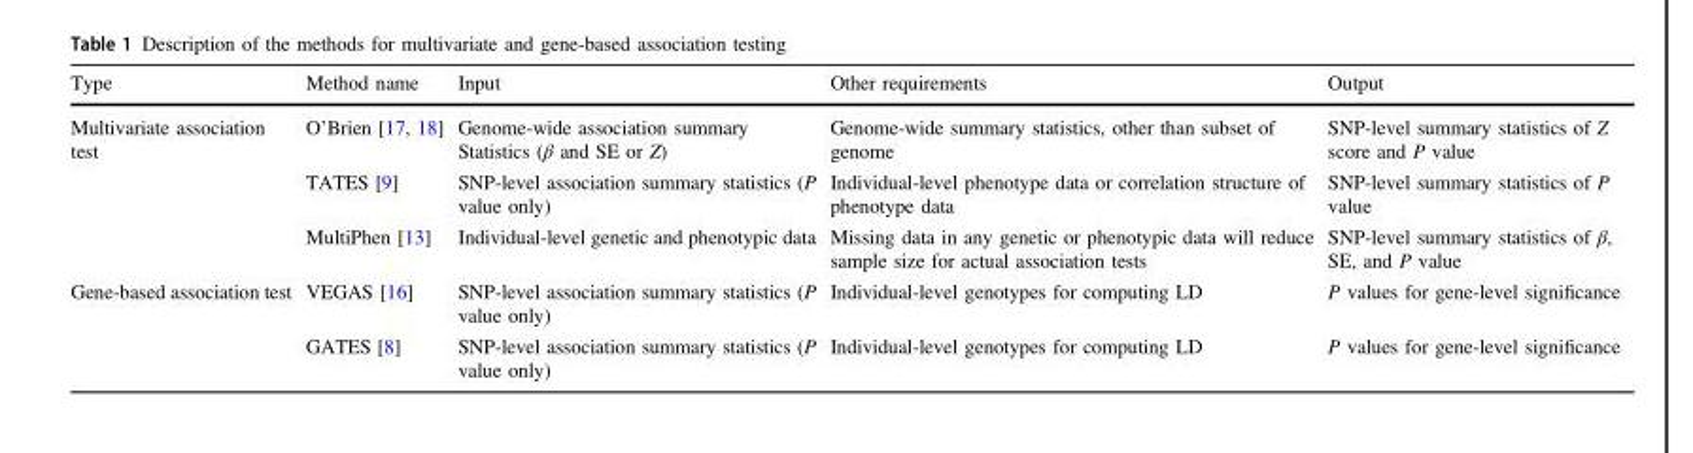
<table><thead><tr><td>Type</td><td>Method name</td><td>Input</td><td>Other requirements</td><td>Output</td></tr></thead><tbody><tr><td rowspan="3">Multivariate association test</td><td>O’Brien [17, 18]</td><td>Genome-wide association summary Statistics (β and SE or Z)</td><td>Genome-wide summary statistics, other than subset of genome</td><td>SNP-level summary statistics of Z score and P value</td></tr><tr><td>TATES [9]</td><td>SNP-level association summary statistics (P value only)</td><td>Individual-level phenotype data or correlation structure of phenotype data</td><td>SNP-level summary statistics of P value</td></tr><tr><td>MultiPhen [13]</td><td>Individual-level genetic and phenotypic data</td><td>Missing data in any genetic or phenotypic data will reduce sample size for actual association tests</td><td>SNP-level summary statistics of β, SE, and P value</td></tr><tr><td rowspan="2">Gene-based association test</td><td>VEGAS [16]</td><td>SNP-level association summary statistics (P value only)</td><td>Individual-level genotypes for computing LD</td><td>P values for gene-level significance</td></tr><tr><td>GATES [8]</td><td>SNP-level association summary statistics (P value only)</td><td>Individual-level genotypes for computing LD</td><td>P values for gene-level significance</td></tr></tbody></table>